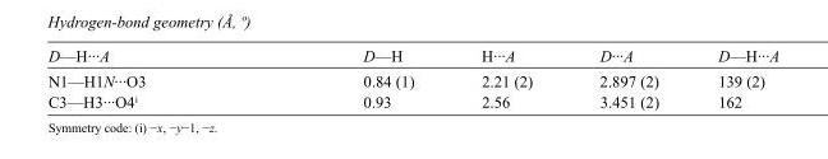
<table><tbody><tr><td>D—H···A</td><td>D—H</td><td>H···A</td><td>D···A</td><td>D—H···A</td></tr><tr><td>N1—H1N···O3</td><td>0.84 (1)</td><td>2.21 (2)</td><td>2.897 (2)</td><td>139 (2)</td></tr><tr><td>C3—H3···O4<sup>i</sup></td><td>0.93</td><td>2.56</td><td>3.451 (2)</td><td>162</td></tr></tbody></table>